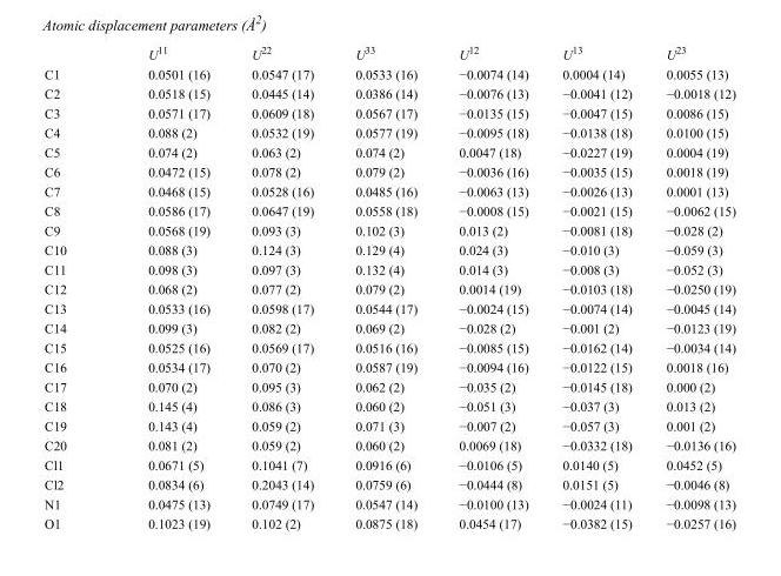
<table><thead><tr><td></td><td>U<sup>11</sup></td><td>U<sup>22</sup></td><td>U<sup>33</sup></td><td>U<sup>12</sup></td><td>U<sup>13</sup></td><td>U<sup>23</sup></td></tr></thead><tbody><tr><td>C1</td><td>0.0501 (16)</td><td>0.0547 (17)</td><td>0.0533 (16)</td><td>−0.0074 (14)</td><td>0.0004 (14)</td><td>0.0055 (13)</td></tr><tr><td>C2</td><td>0.0518 (15)</td><td>0.0445 (14)</td><td>0.0386 (14)</td><td>−0.0076 (13)</td><td>−0.0041 (12)</td><td>−0.0018 (12)</td></tr><tr><td>C3</td><td>0.0571 (17)</td><td>0.0609 (18)</td><td>0.0567 (17)</td><td>−0.0135 (15)</td><td>−0.0047 (15)</td><td>0.0086 (15)</td></tr><tr><td>C4</td><td>0.088 (2)</td><td>0.0532 (19)</td><td>0.0577 (19)</td><td>−0.0095 (18)</td><td>−0.0138 (18)</td><td>0.0100 (15)</td></tr><tr><td>C5</td><td>0.074 (2)</td><td>0.063 (2)</td><td>0.074 (2)</td><td>0.0047 (18)</td><td>−0.0227 (19)</td><td>0.0004 (19)</td></tr><tr><td>C6</td><td>0.0472 (15)</td><td>0.078 (2)</td><td>0.079 (2)</td><td>−0.0036 (16)</td><td>−0.0035 (15)</td><td>0.0018 (19)</td></tr><tr><td>C7</td><td>0.0468 (15)</td><td>0.0528 (16)</td><td>0.0485 (16)</td><td>−0.0063 (13)</td><td>−0.0026 (13)</td><td>0.0001 (13)</td></tr><tr><td>C8</td><td>0.0586 (17)</td><td>0.0647 (19)</td><td>0.0558 (18)</td><td>−0.0008 (15)</td><td>−0.0021 (15)</td><td>−0.0062 (15)</td></tr><tr><td>C9</td><td>0.0568 (19)</td><td>0.093 (3)</td><td>0.102 (3)</td><td>0.013 (2)</td><td>−0.0081 (18)</td><td>−0.028 (2)</td></tr><tr><td>C10</td><td>0.088 (3)</td><td>0.124 (3)</td><td>0.129 (4)</td><td>0.024 (3)</td><td>−0.010 (3)</td><td>−0.059 (3)</td></tr><tr><td>C11</td><td>0.098 (3)</td><td>0.097 (3)</td><td>0.132 (4)</td><td>0.014 (3)</td><td>−0.008 (3)</td><td>−0.052 (3)</td></tr><tr><td>C12</td><td>0.068 (2)</td><td>0.077 (2)</td><td>0.079 (2)</td><td>0.0014 (19)</td><td>−0.0103 (18)</td><td>−0.0250 (19)</td></tr><tr><td>C13</td><td>0.0533 (16)</td><td>0.0598 (17)</td><td>0.0544 (17)</td><td>−0.0024 (15)</td><td>−0.0074 (14)</td><td>−0.0045 (14)</td></tr><tr><td>C14</td><td>0.099 (3)</td><td>0.082 (2)</td><td>0.069 (2)</td><td>−0.028 (2)</td><td>−0.001 (2)</td><td>−0.0123 (19)</td></tr><tr><td>C15</td><td>0.0525 (16)</td><td>0.0569 (17)</td><td>0.0516 (16)</td><td>−0.0085 (15)</td><td>−0.0162 (14)</td><td>−0.0034 (14)</td></tr><tr><td>C16</td><td>0.0534 (17)</td><td>0.070 (2)</td><td>0.0587 (19)</td><td>−0.0094 (16)</td><td>−0.0122 (15)</td><td>0.0018 (16)</td></tr><tr><td>C17</td><td>0.070 (2)</td><td>0.095 (3)</td><td>0.062 (2)</td><td>−0.035 (2)</td><td>−0.0145 (18)</td><td>0.000 (2)</td></tr><tr><td>C18</td><td>0.145 (4)</td><td>0.086 (3)</td><td>0.060 (2)</td><td>−0.051 (3)</td><td>−0.037 (3)</td><td>0.013 (2)</td></tr><tr><td>C19</td><td>0.143 (4)</td><td>0.059 (2)</td><td>0.071 (3)</td><td>−0.007 (2)</td><td>−0.057 (3)</td><td>0.001 (2)</td></tr><tr><td>C20</td><td>0.081 (2)</td><td>0.059 (2)</td><td>0.060 (2)</td><td>0.0069 (18)</td><td>−0.0332 (18)</td><td>−0.0136 (16)</td></tr><tr><td>Cl1</td><td>0.0671 (5)</td><td>0.1041 (7)</td><td>0.0916 (6)</td><td>−0.0106 (5)</td><td>0.0140 (5)</td><td>0.0452 (5)</td></tr><tr><td>Cl2</td><td>0.0834 (6)</td><td>0.2043 (14)</td><td>0.0759 (6)</td><td>−0.0444 (8)</td><td>0.0151 (5)</td><td>−0.0046 (8)</td></tr><tr><td>N1</td><td>0.0475 (13)</td><td>0.0749 (17)</td><td>0.0547 (14)</td><td>−0.0100 (13)</td><td>−0.0024 (11)</td><td>−0.0098 (13)</td></tr><tr><td>O1</td><td>0.1023 (19)</td><td>0.102 (2)</td><td>0.0875 (18)</td><td>0.0454 (17)</td><td>−0.0382 (15)</td><td>−0.0257 (16)</td></tr></tbody></table>